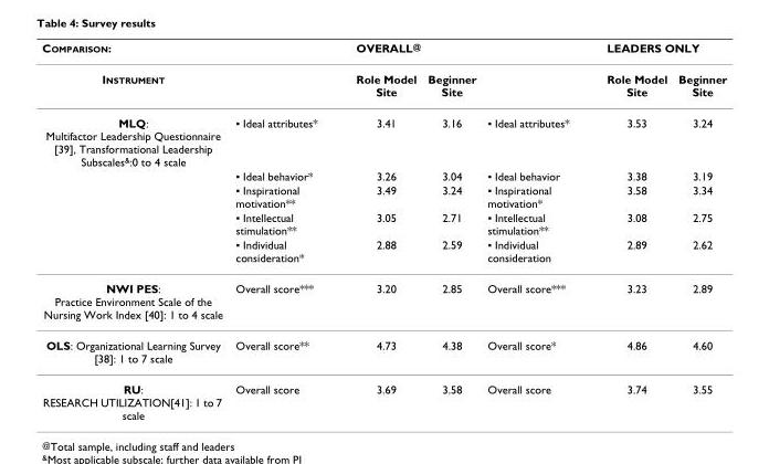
<table><thead><tr><td rowspan="2">COMPARISON: INSTRUMENT</td><td rowspan="2"></td><td colspan="2">OVERALL@</td><td rowspan="2"></td><td colspan="2">LEADERS ONLY</td></tr><tr><td>Role Model Site</td><td>Beginner Site</td><td>Role Model Site</td><td>Beginner Site</td></tr></thead><tbody><tr><td rowspan="5">MLQ: Multifactor Leadership Questionnaire [39], Transformational Leadership Subscales<sup>&amp;</sup>:0 to 4 scale</td><td>▪ Ideal attributes*</td><td>3.41</td><td>3.16</td><td>▪ Ideal attributes*</td><td>3.53</td><td>3.24</td></tr><tr><td>▪ Ideal behavior*</td><td>3.26</td><td>3.04</td><td>▪ Ideal behavior</td><td>3.38</td><td>3.19</td></tr><tr><td>▪ Inspirational motivation**</td><td>3.49</td><td>3.24</td><td>▪ Inspirational motivation*</td><td>3.58</td><td>3.34</td></tr><tr><td>▪ Intellectual stimulation**</td><td>3.05</td><td>2.71</td><td>▪ Intellectual stimulation**</td><td>3.08</td><td>2.75</td></tr><tr><td>▪ Individual consideration*</td><td>2.88</td><td>2.59</td><td>▪ Individual consideration</td><td>2.89</td><td>2.62</td></tr><tr><td>NWI PES: Practice Environment Scale of the Nursing Work Index [40]: 1 to 4 scale</td><td>Overall score***</td><td>3.20</td><td>2.85</td><td>Overall score***</td><td>3.23</td><td>2.89</td></tr><tr><td>OLS: Organizational Learning Survey [38]: 1 to 7 scale</td><td>Overall score**</td><td>4.73</td><td>4.38</td><td>Overall score*</td><td>4.86</td><td>4.60</td></tr><tr><td>RU: RESEARCH UTILIZATION[41]: 1 to 7 scale</td><td>Overall score</td><td>3.69</td><td>3.58</td><td>Overall score</td><td>3.74</td><td>3.55</td></tr></tbody></table>